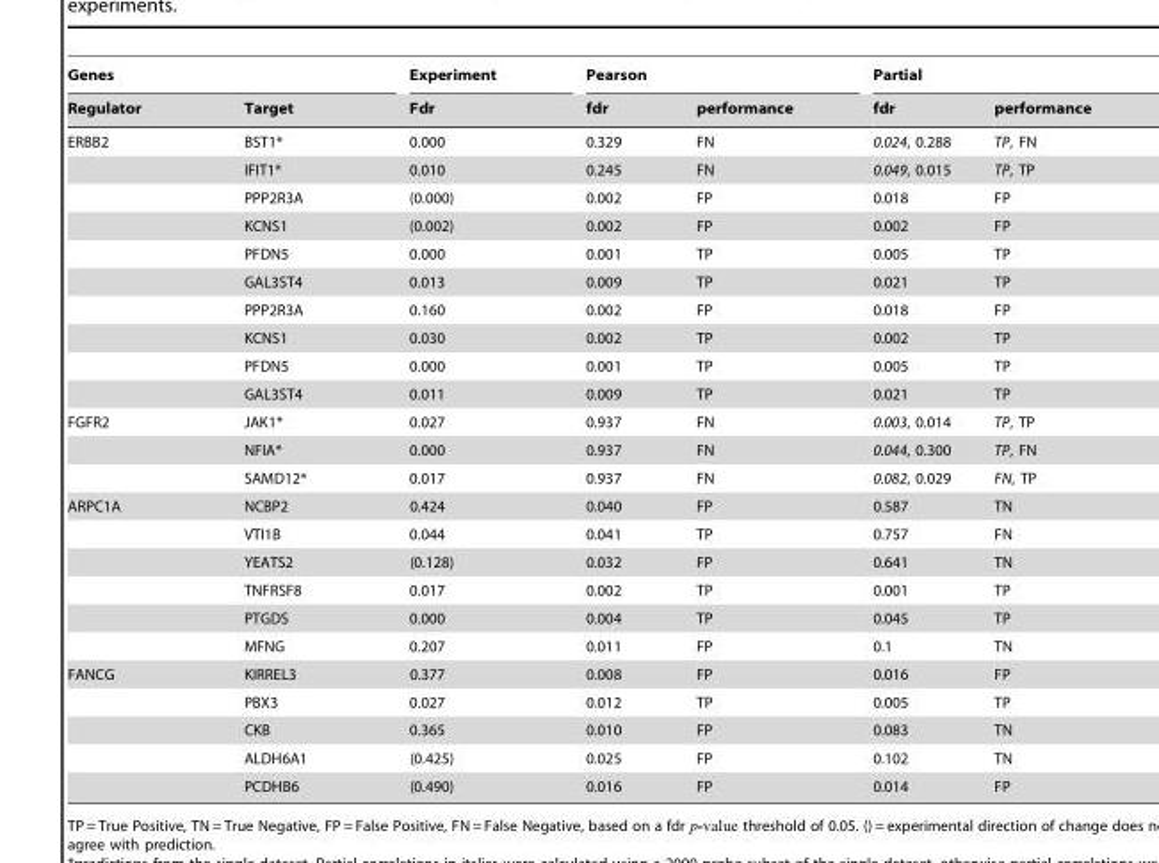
<table><thead><tr><td colspan="2">Genes</td><td rowspan="2">Experiment Fdr</td><td colspan="2">Pearson</td><td colspan="2">Partial</td></tr><tr><td>Regulator</td><td>Target</td><td>fdr</td><td>performance</td><td>fdr</td><td>performance</td></tr></thead><tbody><tr><td rowspan="10">ERBB2</td><td>BST1*</td><td>0.000</td><td>0.329</td><td>FN</td><td>0.024, 0.288</td><td>TP, FN</td></tr><tr><td>IFIT1*</td><td>0.010</td><td>0.245</td><td>FN</td><td>0.049, 0.015</td><td>TP, TP</td></tr><tr><td>PPP2R3A</td><td>(0.000)</td><td>0.002</td><td>FP</td><td>0.018</td><td>FP</td></tr><tr><td>KCNS1</td><td>(0.002)</td><td>0.002</td><td>FP</td><td>0.002</td><td>FP</td></tr><tr><td>PFDN5</td><td>0.000</td><td>0.001</td><td>TP</td><td>0.005</td><td>TP</td></tr><tr><td>GAL3ST4</td><td>0.013</td><td>0.009</td><td>TP</td><td>0.021</td><td>TP</td></tr><tr><td>PPP2R3A</td><td>0.160</td><td>0.002</td><td>FP</td><td>0.018</td><td>FP</td></tr><tr><td>KCNS1</td><td>0.030</td><td>0.002</td><td>TP</td><td>0.002</td><td>TP</td></tr><tr><td>PFDN5</td><td>0.000</td><td>0.001</td><td>TP</td><td>0.005</td><td>TP</td></tr><tr><td>GAL3ST4</td><td>0.011</td><td>0.009</td><td>TP</td><td>0.021</td><td>TP</td></tr><tr><td rowspan="3">FGFR2</td><td>JAK1*</td><td>0.027</td><td>0.937</td><td>FN</td><td>0.003, 0.014</td><td>TP, TP</td></tr><tr><td>NFIA*</td><td>0.000</td><td>0.937</td><td>FN</td><td>0.044, 0.300</td><td>TP, FN</td></tr><tr><td>SAMD12*</td><td>0.017</td><td>0.937</td><td>FN</td><td>0.082, 0.029</td><td>FN, TP</td></tr><tr><td rowspan="6">ARPC1A</td><td>NCBP2</td><td>0.424</td><td>0.040</td><td>FP</td><td>0.587</td><td>TN</td></tr><tr><td>VTI1B</td><td>0.044</td><td>0.041</td><td>TP</td><td>0.757</td><td>FN</td></tr><tr><td>YEATS2</td><td>(0.128)</td><td>0.032</td><td>FP</td><td>0.641</td><td>TN</td></tr><tr><td>TNFRSF8</td><td>0.017</td><td>0.002</td><td>TP</td><td>0.001</td><td>TP</td></tr><tr><td>PTGDS</td><td>0.000</td><td>0.004</td><td>TP</td><td>0.045</td><td>TP</td></tr><tr><td>MFNG</td><td>0.207</td><td>0.011</td><td>FP</td><td>0.1</td><td>TN</td></tr><tr><td rowspan="5">FANCG</td><td>KIRREL3</td><td>0.377</td><td>0.008</td><td>FP</td><td>0.016</td><td>FP</td></tr><tr><td>PBX3</td><td>0.027</td><td>0.012</td><td>TP</td><td>0.005</td><td>TP</td></tr><tr><td>CKB</td><td>0.365</td><td>0.010</td><td>FP</td><td>0.083</td><td>TN</td></tr><tr><td>ALDH6A1</td><td>(0.425)</td><td>0.025</td><td>FP</td><td>0.102</td><td>TN</td></tr><tr><td>PCDHB6</td><td>(0.490)</td><td>0.016</td><td>FP</td><td>0.014</td><td>FP</td></tr></tbody></table>